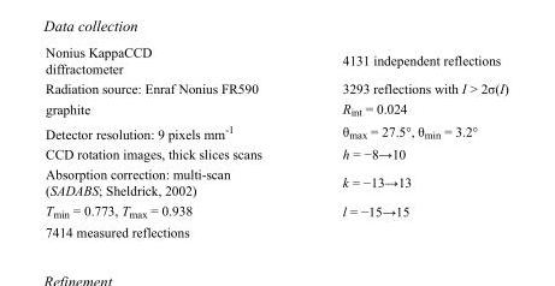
<table><tbody><tr><td>Nonius KappaCCD diffractometer</td><td>4131 independent reflections</td></tr><tr><td>Radiation source: Enraf Nonius FR590</td><td>3293 reflections with I &gt; 2σ(I)</td></tr><tr><td>graphite</td><td>R<sub>int</sub> = 0.024</td></tr><tr><td>Detector resolution: 9 pixels mm<sup>-1</sup></td><td>θ<sub>max</sub> = 27.5°, θ<sub>min</sub> = 3.2°</td></tr><tr><td>CCD rotation images, thick slices scans</td><td>h = −8→10</td></tr><tr><td>Absorption correction: multi-scan (SADABS; Sheldrick, 2002)</td><td>k = −13→13</td></tr><tr><td>T<sub>min</sub> = 0.773, T<sub>max</sub> = 0.938</td><td>l = −15→15</td></tr><tr><td>7414 measured reflections</td><td></td></tr></tbody></table>